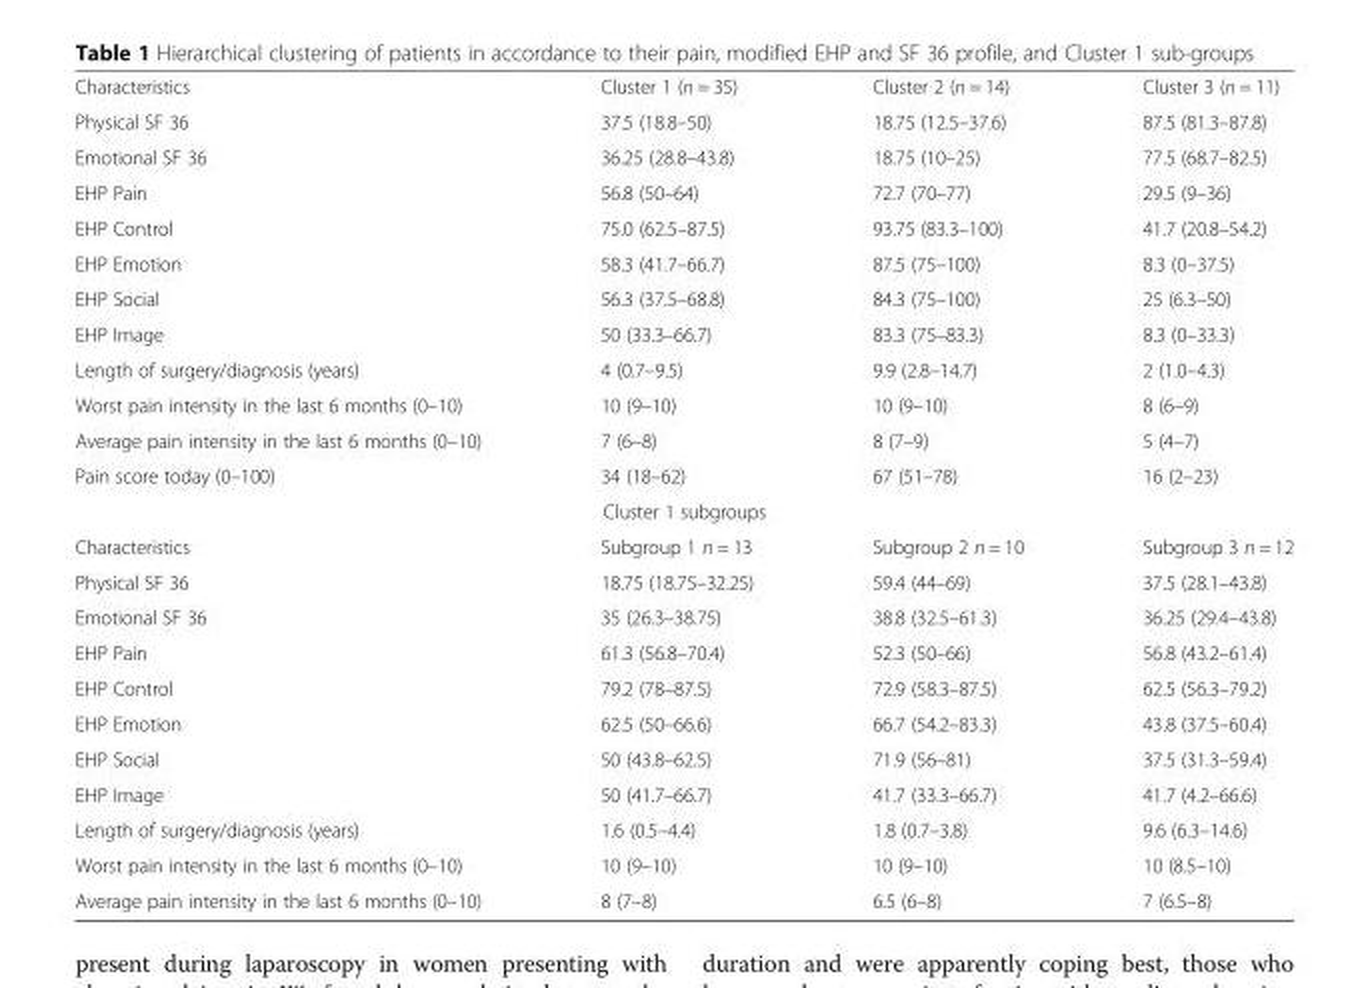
<table><tbody><tr><td>Characteristics</td><td>Cluster 1 (n = 35)</td><td>Cluster 2 (n = 14)</td><td>Cluster 3 (n = 11)</td></tr><tr><td>Physical SF 36</td><td>37.5 (18.8–50)</td><td>18.75 (12.5–37.6)</td><td>87.5 (81.3–87.8)</td></tr><tr><td>Emotional SF 36</td><td>36.25 (28.8–43.8)</td><td>18.75 (10–25)</td><td>77.5 (68.7–82.5)</td></tr><tr><td>EHP Pain</td><td>56.8 (50–64)</td><td>72.7 (70–77)</td><td>29.5 (9–36)</td></tr><tr><td>EHP Control</td><td>75.0 (62.5–87.5)</td><td>93.75 (83.3–100)</td><td>41.7 (20.8–54.2)</td></tr><tr><td>EHP Emotion</td><td>58.3 (41.7–66.7)</td><td>87.5 (75–100)</td><td>8.3 (0–37.5)</td></tr><tr><td>EHP Social</td><td>56.3 (37.5–68.8)</td><td>84.3 (75–100)</td><td>25 (6.3–50)</td></tr><tr><td>EHP Image</td><td>50 (33.3–66.7)</td><td>83.3 (75–83.3)</td><td>8.3 (0–33.3)</td></tr><tr><td>Length of surgery/diagnosis (years)</td><td>4 (0.7–9.5)</td><td>9.9 (2.8–14.7)</td><td>2 (1.0–4.3)</td></tr><tr><td>Worst pain intensity in the last 6 months (0–10)</td><td>10 (9–10)</td><td>10 (9–10)</td><td>8 (6–9)</td></tr><tr><td>Average pain intensity in the last 6 months (0–10)</td><td>7 (6–8)</td><td>8 (7–9)</td><td>5 (4–7)</td></tr><tr><td>Pain score today (0–100)</td><td>34 (18–62)</td><td>67 (51–78)</td><td>16 (2–23)</td></tr><tr><td colspan="4">Cluster 1 subgroups</td></tr><tr><td>Characteristics</td><td>Subgroup 1 n = 13</td><td>Subgroup 2 n = 10</td><td>Subgroup 3 n = 12</td></tr><tr><td>Physical SF 36</td><td>18.75 (18.75–32.25)</td><td>59.4 (44–69)</td><td>37.5 (28.1–43.8)</td></tr><tr><td>Emotional SF 36</td><td>35 (26.3–38.75)</td><td>38.8 (32.5–61.3)</td><td>36.25 (29.4–43.8)</td></tr><tr><td>EHP Pain</td><td>61.3 (56.8–70.4)</td><td>52.3 (50–66)</td><td>56.8 (43.2–61.4)</td></tr><tr><td>EHP Control</td><td>79.2 (78–87.5)</td><td>72.9 (58.3–87.5)</td><td>62.5 (56.3–79.2)</td></tr><tr><td>EHP Emotion</td><td>62.5 (50–66.6)</td><td>66.7 (54.2–83.3)</td><td>43.8 (37.5–60.4)</td></tr><tr><td>EHP Social</td><td>50 (43.8–62.5)</td><td>71.9 (56–81)</td><td>37.5 (31.3–59.4)</td></tr><tr><td>EHP Image</td><td>50 (41.7–66.7)</td><td>41.7 (33.3–66.7)</td><td>41.7 (4.2–66.6)</td></tr><tr><td>Length of surgery/diagnosis (years)</td><td>1.6 (0.5–4.4)</td><td>1.8 (0.7–3.8)</td><td>9.6 (6.3–14.6)</td></tr><tr><td>Worst pain intensity in the last 6 months (0–10)</td><td>10 (9–10)</td><td>10 (9–10)</td><td>10 (8.5–10)</td></tr><tr><td>Average pain intensity in the last 6 months (0–10)</td><td>8 (7–8)</td><td>6.5 (6–8)</td><td>7 (6.5–8)</td></tr></tbody></table>